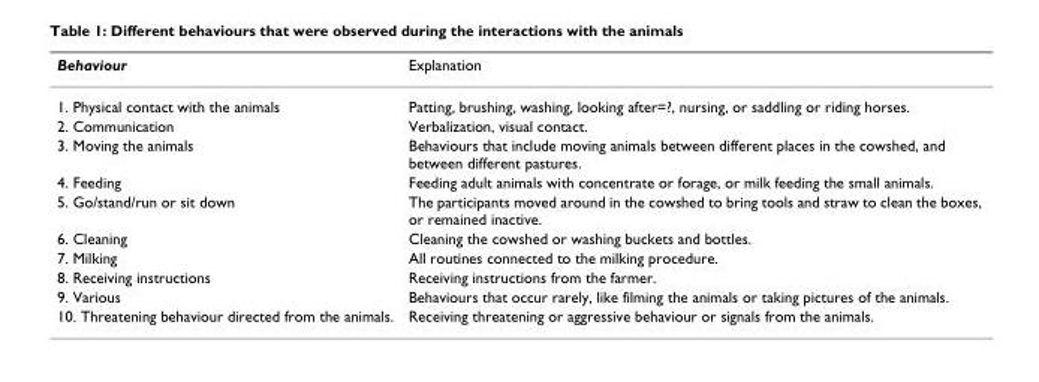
<table><thead><tr><td>Behaviour</td><td>Explanation</td></tr></thead><tbody><tr><td>1. Physical contact with the animals</td><td>Patting, brushing, washing, looking after=?, nursing, or saddling or riding horses.</td></tr><tr><td>2. Communication</td><td>Verbalization, visual contact.</td></tr><tr><td>3. Moving the animals</td><td>Behaviours that include moving animals between different places in the cowshed, and between different pastures.</td></tr><tr><td>4. Feeding</td><td>Feeding adult animals with concentrate or forage, or milk feeding the small animals.</td></tr><tr><td>5. Go/stand/run or sit down</td><td>The participants moved around in the cowshed to bring tools and straw to clean the boxes, or remained inactive.</td></tr><tr><td>6. Cleaning</td><td>Cleaning the cowshed or washing buckets and bottles.</td></tr><tr><td>7. Milking</td><td>All routines connected to the milking procedure.</td></tr><tr><td>8. Receiving instructions</td><td>Receiving instructions from the farmer.</td></tr><tr><td>9. Various</td><td>Behaviours that occur rarely, like filming the animals or taking pictures of the animals.</td></tr><tr><td>10. Threatening behaviour directed from the animals.</td><td>Receiving threatening or aggressive behaviour or signals from the animals.</td></tr></tbody></table>